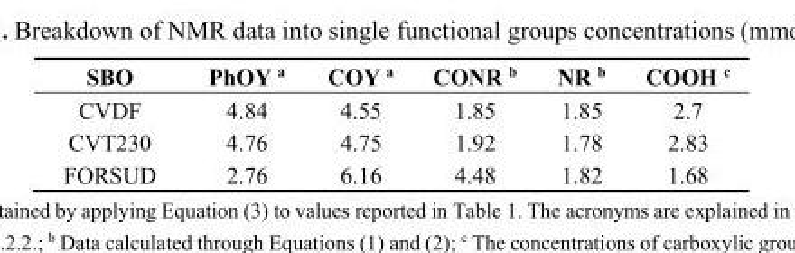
<table><thead><tr><td>SBO</td><td>PhOY <sup>a</sup></td><td>COY <sup>a</sup></td><td>CONR <sup>b</sup></td><td>NR <sup>b</sup></td><td>COOH <sup>c</sup></td></tr></thead><tbody><tr><td>CVDF</td><td>4.84</td><td>4.55</td><td>1.85</td><td>1.85</td><td>2.7</td></tr><tr><td>CVT230</td><td>4.76</td><td>4.75</td><td>1.92</td><td>1.78</td><td>2.83</td></tr><tr><td>FORSUD</td><td>2.76</td><td>6.16</td><td>4.48</td><td>1.82</td><td>1.68</td></tr></tbody></table>